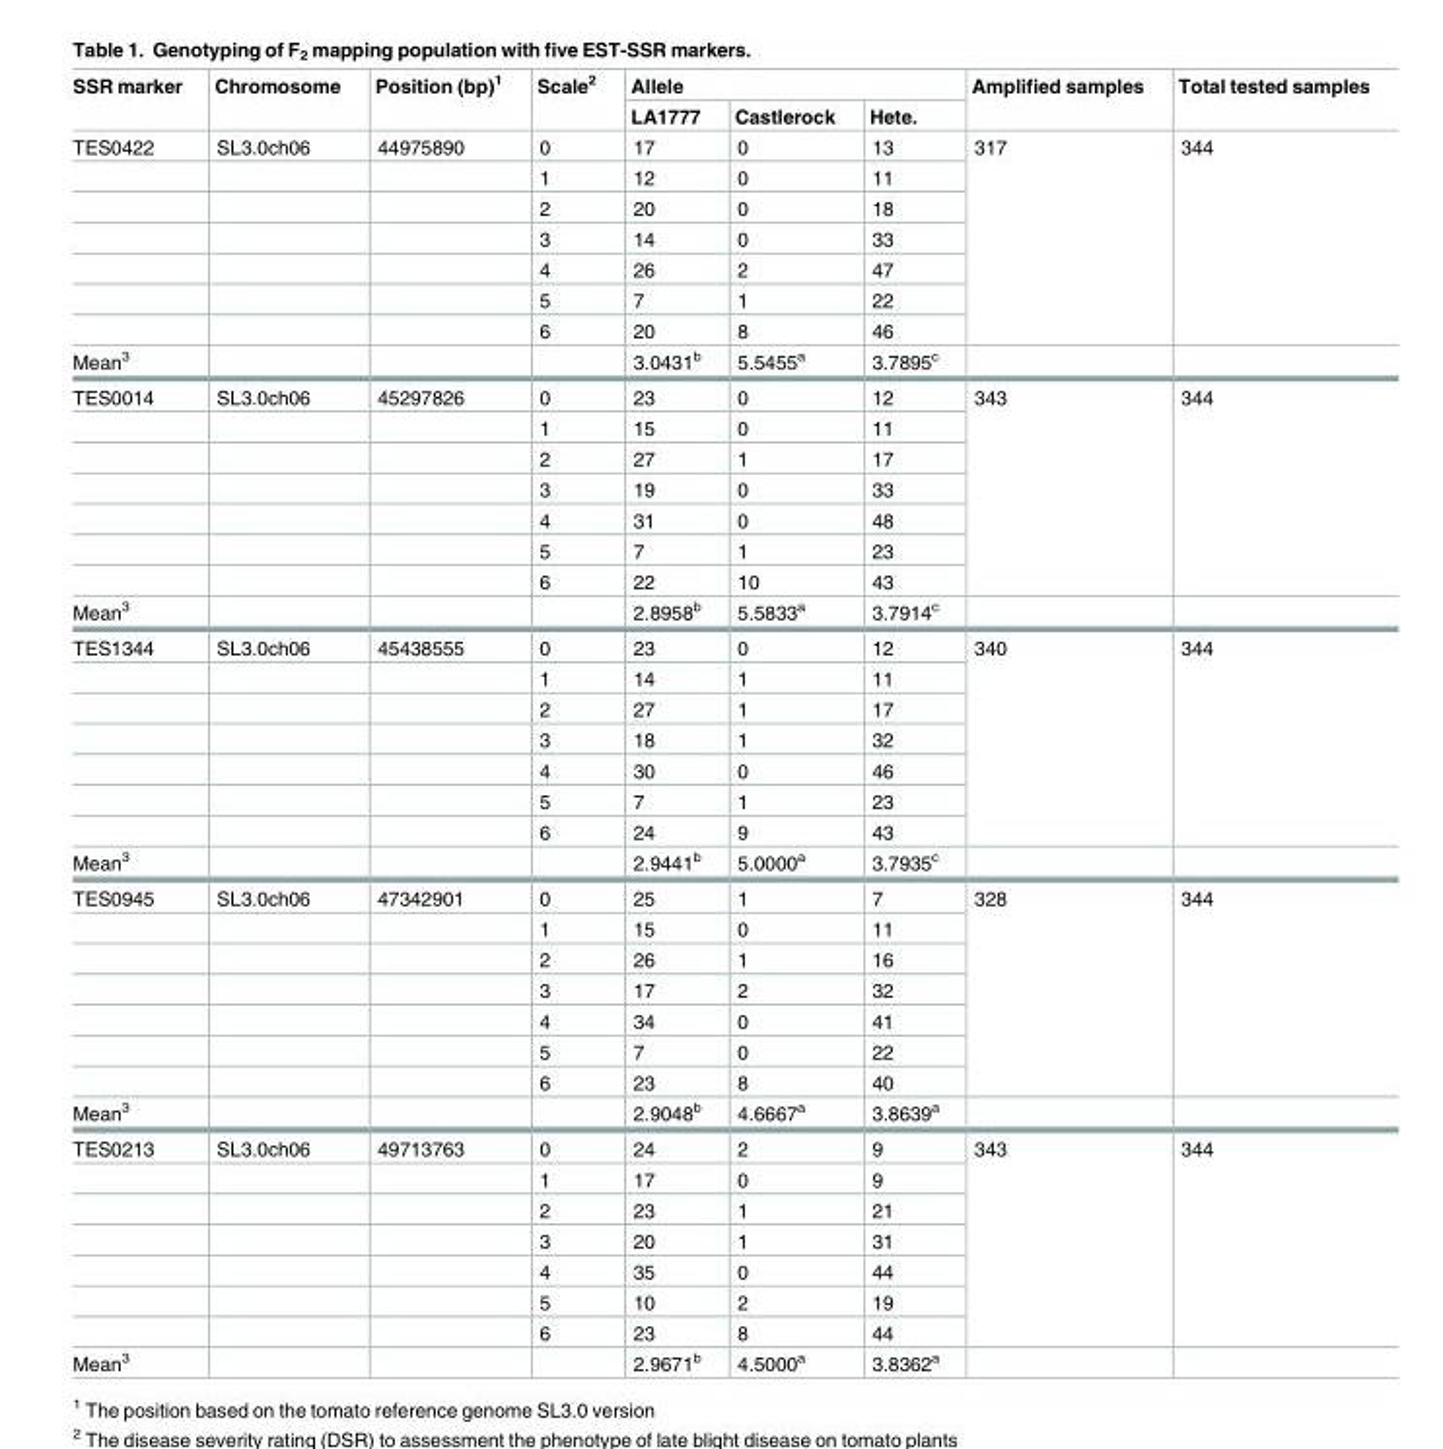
<table><thead><tr><td rowspan="2">SSR marker</td><td rowspan="2">Chromosome</td><td rowspan="2">Position (bp)<sup>1</sup></td><td rowspan="2">Scale<sup>2</sup></td><td colspan="3">Allele</td><td rowspan="2">Amplified samples</td><td rowspan="2">Total tested samples</td></tr><tr><td>LA1777</td><td>Castlerock</td><td>Hete.</td></tr></thead><tbody><tr><td rowspan="7">TES0422</td><td>SL3.0ch06</td><td>44975890</td><td>0</td><td>17</td><td>0</td><td>13</td><td rowspan="7">317</td><td rowspan="7">344</td></tr><tr><td></td><td></td><td>1</td><td>12</td><td>0</td><td>11</td></tr><tr><td></td><td></td><td>2</td><td>20</td><td>0</td><td>18</td></tr><tr><td></td><td></td><td>3</td><td>14</td><td>0</td><td>33</td></tr><tr><td></td><td></td><td>4</td><td>26</td><td>2</td><td>47</td></tr><tr><td></td><td></td><td>5</td><td>7</td><td>1</td><td>22</td></tr><tr><td></td><td></td><td>6</td><td>20</td><td>8</td><td>46</td></tr><tr><td>Mean<sup>3</sup></td><td></td><td></td><td></td><td>3.0431<sup>b</sup></td><td>5.5455<sup>a</sup></td><td>3.7895<sup>c</sup></td><td></td><td></td></tr><tr><td rowspan="7">TES0014</td><td>SL3.0ch06</td><td>45297826</td><td>0</td><td>23</td><td>0</td><td>12</td><td rowspan="7">343</td><td rowspan="7">344</td></tr><tr><td></td><td></td><td>1</td><td>15</td><td>0</td><td>11</td></tr><tr><td></td><td></td><td>2</td><td>27</td><td>1</td><td>17</td></tr><tr><td></td><td></td><td>3</td><td>19</td><td>0</td><td>33</td></tr><tr><td></td><td></td><td>4</td><td>31</td><td>0</td><td>48</td></tr><tr><td></td><td></td><td>5</td><td>7</td><td>1</td><td>23</td></tr><tr><td></td><td></td><td>6</td><td>22</td><td>10</td><td>43</td></tr><tr><td>Mean<sup>3</sup></td><td></td><td></td><td></td><td>2.8958<sup>b</sup></td><td>5.5833<sup>a</sup></td><td>3.7914<sup>c</sup></td><td></td><td></td></tr><tr><td rowspan="7">TES1344</td><td>SL3.0ch06</td><td>45438555</td><td>0</td><td>23</td><td>0</td><td>12</td><td rowspan="7">340</td><td rowspan="7">344</td></tr><tr><td></td><td></td><td>1</td><td>14</td><td>1</td><td>11</td></tr><tr><td></td><td></td><td>2</td><td>27</td><td>1</td><td>17</td></tr><tr><td></td><td></td><td>3</td><td>18</td><td>1</td><td>32</td></tr><tr><td></td><td></td><td>4</td><td>30</td><td>0</td><td>46</td></tr><tr><td></td><td></td><td>5</td><td>7</td><td>1</td><td>23</td></tr><tr><td></td><td></td><td>6</td><td>24</td><td>9</td><td>43</td></tr><tr><td>Mean<sup>3</sup></td><td></td><td></td><td></td><td>2.9441<sup>b</sup></td><td>5.0000<sup>a</sup></td><td>3.7935<sup>c</sup></td><td></td><td></td></tr><tr><td rowspan="7">TES0945</td><td>SL3.0ch06</td><td>47342901</td><td>0</td><td>25</td><td>1</td><td>7</td><td rowspan="7">328</td><td rowspan="7">344</td></tr><tr><td></td><td></td><td>1</td><td>15</td><td>0</td><td>11</td></tr><tr><td></td><td></td><td>2</td><td>26</td><td>1</td><td>16</td></tr><tr><td></td><td></td><td>3</td><td>17</td><td>2</td><td>32</td></tr><tr><td></td><td></td><td>4</td><td>34</td><td>0</td><td>41</td></tr><tr><td></td><td></td><td>5</td><td>7</td><td>0</td><td>22</td></tr><tr><td></td><td></td><td>6</td><td>23</td><td>8</td><td>40</td></tr><tr><td>Mean<sup>3</sup></td><td></td><td></td><td></td><td>2.9048<sup>b</sup></td><td>4.6667<sup>a</sup></td><td>3.8639<sup>a</sup></td><td></td><td></td></tr><tr><td rowspan="7">TES0213</td><td>SL3.0ch06</td><td>49713763</td><td>0</td><td>24</td><td>2</td><td>9</td><td rowspan="7">343</td><td rowspan="7">344</td></tr><tr><td></td><td></td><td>1</td><td>17</td><td>0</td><td>9</td></tr><tr><td></td><td></td><td>2</td><td>23</td><td>1</td><td>21</td></tr><tr><td></td><td></td><td>3</td><td>20</td><td>1</td><td>31</td></tr><tr><td></td><td></td><td>4</td><td>35</td><td>0</td><td>44</td></tr><tr><td></td><td></td><td>5</td><td>10</td><td>2</td><td>19</td></tr><tr><td></td><td></td><td>6</td><td>23</td><td>8</td><td>44</td></tr><tr><td>Mean<sup>3</sup></td><td></td><td></td><td></td><td>2.9671<sup>b</sup></td><td>4.5000<sup>a</sup></td><td>3.8362<sup>a</sup></td><td></td><td></td></tr></tbody></table>